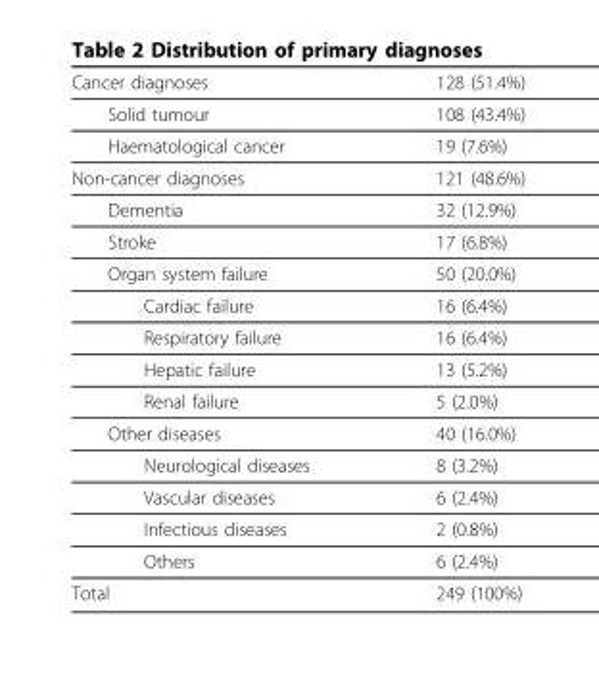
<table><thead><tr><td>Cancer diagnoses</td><td>128 (51.4%)</td></tr></thead><tbody><tr><td>Solid tumour</td><td>108 (43.4%)</td></tr><tr><td>Haematological cancer</td><td>19 (7.6%)</td></tr><tr><td>Non-cancer diagnoses</td><td>121 (48.6%)</td></tr><tr><td>Dementia</td><td>32 (12.9%)</td></tr><tr><td>Stroke</td><td>17 (6.8%)</td></tr><tr><td>Organ system failure</td><td>50 (20.0%)</td></tr><tr><td>Cardiac failure</td><td>16 (6.4%)</td></tr><tr><td>Respiratory failure</td><td>16 (6.4%)</td></tr><tr><td>Hepatic failure</td><td>13 (5.2%)</td></tr><tr><td>Renal failure</td><td>5 (2.0%)</td></tr><tr><td>Other diseases</td><td>40 (16.0%)</td></tr><tr><td>Neurological diseases</td><td>8 (3.2%)</td></tr><tr><td>Vascular diseases</td><td>6 (2.4%)</td></tr><tr><td>Infectious diseases</td><td>2 (0.8%)</td></tr><tr><td>Others</td><td>6 (2.4%)</td></tr><tr><td>Total</td><td>249 (100%)</td></tr></tbody></table>